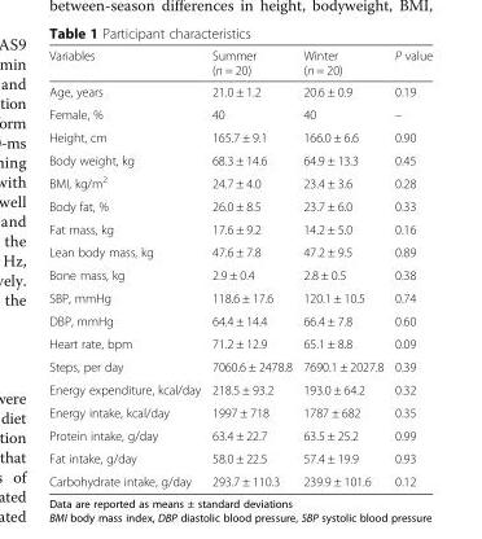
<table><thead><tr><td>Variables</td><td>Summer (n = 20)</td><td>Winter (n = 20)</td><td>P value</td></tr></thead><tbody><tr><td>Age, years</td><td>21.0 ± 1.2</td><td>20.6 ± 0.9</td><td>0.19</td></tr><tr><td>Female, %</td><td>40</td><td>40</td><td>–</td></tr><tr><td>Height, cm</td><td>165.7 ± 9.1</td><td>166.0 ± 6.6</td><td>0.90</td></tr><tr><td>Body weight, kg</td><td>68.3 ± 14.6</td><td>64.9 ± 13.3</td><td>0.45</td></tr><tr><td>BMI, kg/m<sup>2</sup></td><td>24.7 ± 4.0</td><td>23.4 ± 3.6</td><td>0.28</td></tr><tr><td>Body fat, %</td><td>26.0 ± 8.5</td><td>23.7 ± 6.0</td><td>0.33</td></tr><tr><td>Fat mass, kg</td><td>17.6 ± 9.2</td><td>14.2 ± 5.0</td><td>0.16</td></tr><tr><td>Lean body mass, kg</td><td>47.6 ± 7.8</td><td>47.2 ± 9.5</td><td>0.89</td></tr><tr><td>Bone mass, kg</td><td>2.9 ± 0.4</td><td>2.8 ± 0.5</td><td>0.38</td></tr><tr><td>SBP, mmHg</td><td>118.6 ± 17.6</td><td>120.1 ± 10.5</td><td>0.74</td></tr><tr><td>DBP, mmHg</td><td>64.4 ± 14.4</td><td>66.4 ± 7.8</td><td>0.60</td></tr><tr><td>Heart rate, bpm</td><td>71.2 ± 12.9</td><td>65.1 ± 8.8</td><td>0.09</td></tr><tr><td>Steps, per day</td><td>7060.6 ± 2478.8</td><td>7690.1 ± 2027.8</td><td>0.39</td></tr><tr><td>Energy expenditure, kcal/day</td><td>218.5 ± 93.2</td><td>193.0 ± 64.2</td><td>0.32</td></tr><tr><td>Energy intake, kcal/day</td><td>1997 ± 718</td><td>1787 ± 682</td><td>0.35</td></tr><tr><td>Protein intake, g/day</td><td>63.4 ± 22.7</td><td>63.5 ± 25.2</td><td>0.99</td></tr><tr><td>Fat intake, g/day</td><td>58.0 ± 22.5</td><td>57.4 ± 19.9</td><td>0.93</td></tr><tr><td>Carbohydrate intake, g/day</td><td>293.7 ± 110.3</td><td>239.9 ± 101.6</td><td>0.12</td></tr></tbody></table>